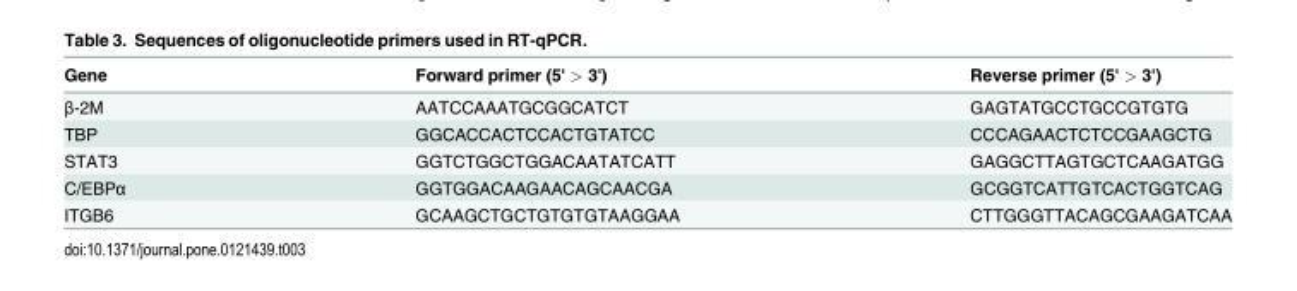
<table><thead><tr><td>Gene</td><td>Forward primer (5&#x27; &gt; 3&#x27;)</td><td>Reverse primer (5&#x27; &gt; 3&#x27;)</td></tr></thead><tbody><tr><td>β-2M</td><td>AATCCAAATGCGGCATCT</td><td>GAGTATGCCTGCCGTGTG</td></tr><tr><td>TBP</td><td>GGCACCACTCCACTGTATCC</td><td>CCCAGAACTCTCCGAAGCTG</td></tr><tr><td>STAT3</td><td>GGTCTGGCTGGACAATATCATT</td><td>GAGGCTTAGTGCTCAAGATGG</td></tr><tr><td>C/EBPα</td><td>GGTGGACAAGAACAGCAACGA</td><td>GCGGTCATTGTCACTGGTCAG</td></tr><tr><td>ITGB6</td><td>GCAAGCTGCTGTGTGTAAGGAA</td><td>CTTGGGTTACAGCGAAGATCAA</td></tr></tbody></table>